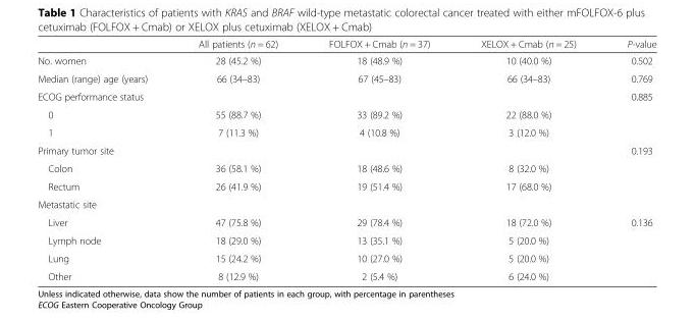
<table><thead><tr><td></td><td>All patients (n = 62)</td><td>FOLFOX + Cmab (n = 37)</td><td>XELOX + Cmab (n = 25)</td><td>P-value</td></tr></thead><tbody><tr><td>No. women</td><td>28 (45.2 %)</td><td>18 (48.9 %)</td><td>10 (40.0 %)</td><td>0.502</td></tr><tr><td>Median (range) age (years)</td><td>66 (34–83)</td><td>67 (45–83)</td><td>66 (34–83)</td><td>0.769</td></tr><tr><td colspan="2">ECOG performance status</td><td></td><td></td><td>0.885</td></tr><tr><td>0</td><td>55 (88.7 %)</td><td>33 (89.2 %)</td><td>22 (88.0 %)</td><td></td></tr><tr><td>1</td><td>7 (11.3 %)</td><td>4 (10.8 %)</td><td>3 (12.0 %)</td><td></td></tr><tr><td>Primary tumor site</td><td></td><td></td><td></td><td>0.193</td></tr><tr><td>Colon</td><td>36 (58.1 %)</td><td>18 (48.6 %)</td><td>8 (32.0 %)</td><td></td></tr><tr><td>Rectum</td><td>26 (41.9 %)</td><td>19 (51.4 %)</td><td>17 (68.0 %)</td><td></td></tr><tr><td colspan="5">Metastatic site</td></tr><tr><td>Liver</td><td>47 (75.8 %)</td><td>29 (78.4 %)</td><td>18 (72.0 %)</td><td>0.136</td></tr><tr><td>Lymph node</td><td>18 (29.0 %)</td><td>13 (35.1 %)</td><td>5 (20.0 %)</td><td></td></tr><tr><td>Lung</td><td>15 (24.2 %)</td><td>10 (27.0 %)</td><td>5 (20.0 %)</td><td></td></tr><tr><td>Other</td><td>8 (12.9 %)</td><td>2 (5.4 %)</td><td>6 (24.0 %)</td><td></td></tr></tbody></table>